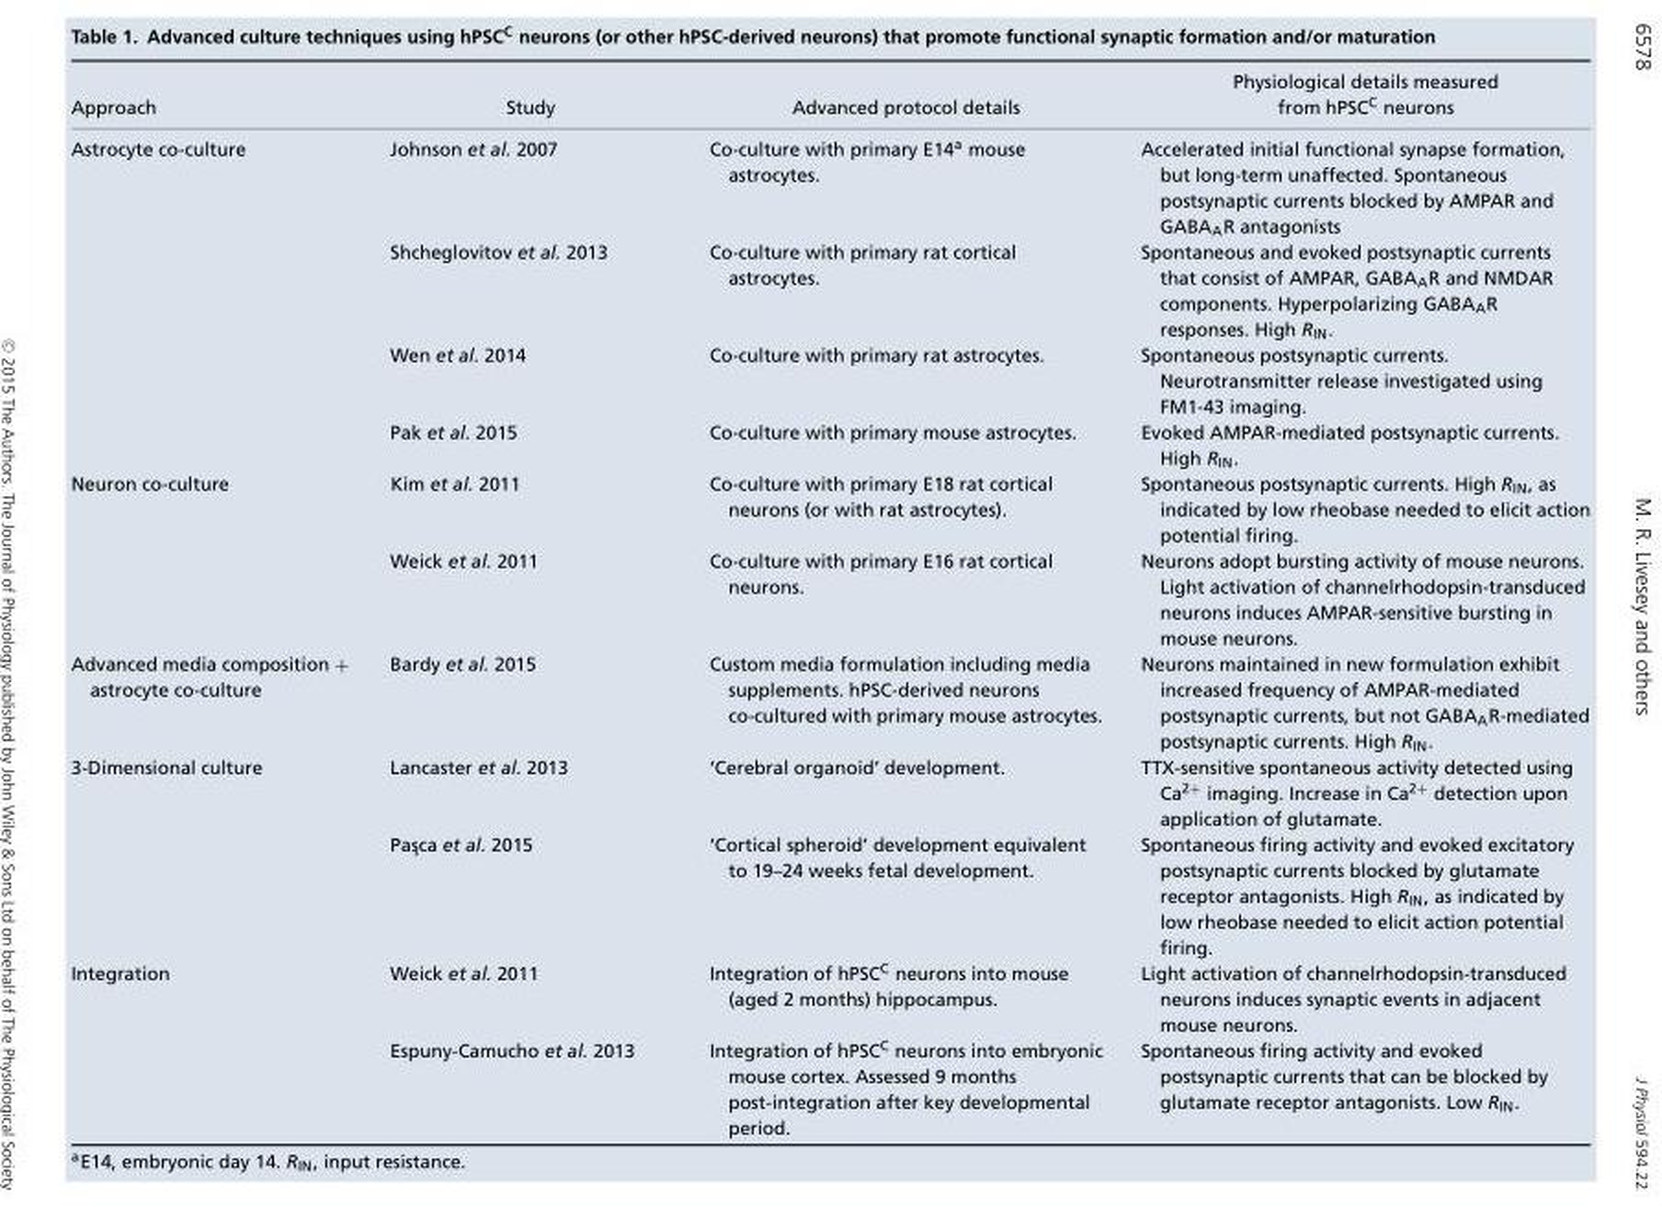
<table><thead><tr><td rowspan="2">Approach</td><td rowspan="2">Study</td><td rowspan="2">Advanced protocol details</td><td rowspan="2">Physiological details measured from hPSC<sup>C</sup> neurons</td></tr><tr></tr></thead><tbody><tr><td rowspan="4">Astrocyte co-culture</td><td>Johnson et al. 2007</td><td>Co-culture with primary E14<sup>a</sup> mouse astrocytes.</td><td>Accelerated initial functional synapse formation, but long-term unaffected. Spontaneous postsynaptic currents blocked by AMPAR and GABA<sub>A</sub>R antagonists</td></tr><tr><td>Shcheglovitov et al. 2013</td><td>Co-culture with primary rat cortical astrocytes.</td><td>Spontaneous and evoked postsynaptic currents that consist of AMPAR, GABA<sub>A</sub>R and NMDAR components. Hyperpolarizing GABA<sub>A</sub>R responses. High R<sub>IN</sub>.</td></tr><tr><td>Wen et al. 2014</td><td>Co-culture with primary rat astrocytes.</td><td>Spontaneous postsynaptic currents. Neurotransmitter release investigated using FM1-43 imaging.</td></tr><tr><td>Pak et al. 2015</td><td>Co-culture with primary mouse astrocytes.</td><td>Evoked AMPAR-mediated postsynaptic currents. High R<sub>IN</sub>.</td></tr><tr><td rowspan="2">Neuron co-culture</td><td>Kim et al. 2011</td><td>Co-culture with primary E18 rat cortical neurons (or with rat astrocytes).</td><td>Spontaneous postsynaptic currents. High R<sub>IN</sub>, as indicated by low rheobase needed to elicit action potential firing.</td></tr><tr><td>Weick et al. 2011</td><td>Co-culture with primary E16 rat cortical neurons.</td><td>Neurons adopt bursting activity of mouse neurons. Light activation of channelrhodopsin-transduced neurons induces AMPAR-sensitive bursting in mouse neurons.</td></tr><tr><td>Advanced media composition + astrocyte co-culture</td><td>Bardy et al. 2015</td><td>Custom media formulation including media supplements. hPSC-derived neurons co-cultured with primary mouse astrocytes.</td><td>Neurons maintained in new formulation exhibit increased frequency of AMPAR-mediated postsynaptic currents, but not GABA<sub>A</sub>R-mediated postsynaptic currents. High R<sub>IN</sub>.</td></tr><tr><td rowspan="2">3-Dimensional culture</td><td>Lancaster et al. 2013</td><td>‘Cerebral organoid’ development.</td><td>TTX-sensitive spontaneous activity detected using Ca<sup>2+</sup> imaging. Increase in Ca<sup>2+</sup> detection upon application of glutamate.</td></tr><tr><td>Pas¸ca et al. 2015</td><td>‘Cortical spheroid’ development equivalent to 19–24 weeks fetal development.</td><td>Spontaneous firing activity and evoked excitatory postsynaptic currents blocked by glutamate receptor antagonists. High R<sub>IN</sub>, as indicated by low rheobase needed to elicit action potential firing.</td></tr><tr><td rowspan="2">Integration</td><td>Weick et al. 2011</td><td>Integration of hPSC<sup>C</sup> neurons into mouse (aged 2 months) hippocampus.</td><td>Light activation of channelrhodopsin-transduced neurons induces synaptic events in adjacent mouse neurons.</td></tr><tr><td>Espuny-Camucho et al. 2013</td><td>Integration of hPSC<sup>C</sup> neurons into embryonic mouse cortex. Assessed 9 months post-integration after key developmental period.</td><td>Spontaneous firing activity and evoked postsynaptic currents that can be blocked by glutamate receptor antagonists. Low R<sub>IN</sub>.</td></tr></tbody></table>